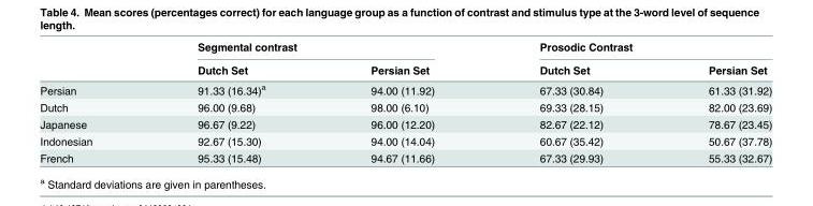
<table><thead><tr><td rowspan="2"></td><td colspan="2">Segmental contrast</td><td colspan="2">Prosodic Contrast</td></tr><tr><td>Dutch Set</td><td>Persian Set</td><td>Dutch Set</td><td>Persian Set</td></tr></thead><tbody><tr><td>Persian</td><td>91.33 (16.34)<sup>a</sup></td><td>94.00 (11.92)</td><td>67.33 (30.84)</td><td>61.33 (31.92)</td></tr><tr><td>Dutch</td><td>96.00 (9.68)</td><td>98.00 (6.10)</td><td>69.33 (28.15)</td><td>82.00 (23.69)</td></tr><tr><td>Japanese</td><td>96.67 (9.22)</td><td>96.00 (12.20)</td><td>82.67 (22.12)</td><td>78.67 (23.45)</td></tr><tr><td>Indonesian</td><td>92.67 (15.30)</td><td>94.00 (14.04)</td><td>60.67 (35.42)</td><td>50.67 (37.78)</td></tr><tr><td>French</td><td>95.33 (15.48)</td><td>94.67 (11.66)</td><td>67.33 (29.93)</td><td>55.33 (32.67)</td></tr></tbody></table>